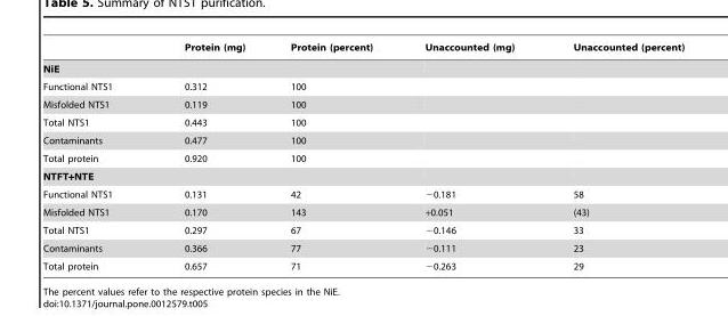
<table><thead><tr><td></td><td>Protein (mg)</td><td>Protein (percent)</td><td>Unaccounted (mg)</td><td>Unaccounted (percent)</td></tr></thead><tbody><tr><td colspan="5">NiE</td></tr><tr><td>Functional NTS1</td><td>0.312</td><td>100</td><td></td><td></td></tr><tr><td>Misfolded NTS1</td><td>0.119</td><td>100</td><td></td><td></td></tr><tr><td>Total NTS1</td><td>0.443</td><td>100</td><td></td><td></td></tr><tr><td>Contaminants</td><td>0.477</td><td>100</td><td></td><td></td></tr><tr><td>Total protein</td><td>0.920</td><td>100</td><td></td><td></td></tr><tr><td colspan="5">NTFT+NTE</td></tr><tr><td>Functional NTS1</td><td>0.131</td><td>42</td><td>−0.181</td><td>58</td></tr><tr><td>Misfolded NTS1</td><td>0.170</td><td>143</td><td>+0.051</td><td>(43)</td></tr><tr><td>Total NTS1</td><td>0.297</td><td>67</td><td>−0.146</td><td>33</td></tr><tr><td>Contaminants</td><td>0.366</td><td>77</td><td>−0.111</td><td>23</td></tr><tr><td>Total protein</td><td>0.657</td><td>71</td><td>−0.263</td><td>29</td></tr></tbody></table>